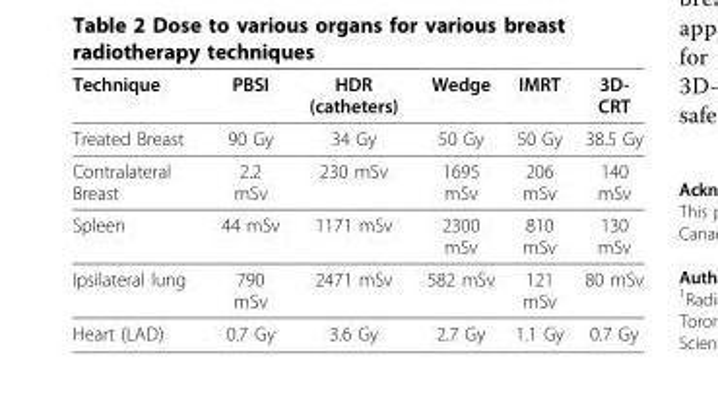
<table><thead><tr><td>Technique</td><td>PBSI</td><td>HDR (catheters)</td><td>Wedge</td><td>IMRT</td><td>3D- CRT</td></tr></thead><tbody><tr><td>Treated Breast</td><td>90 Gy</td><td>34 Gy</td><td>50 Gy</td><td>50 Gy</td><td>38.5 Gy</td></tr><tr><td>Contralateral Breast</td><td>2.2 mSv</td><td>230 mSv</td><td>1695 mSv</td><td>206 mSv</td><td>140 mSv</td></tr><tr><td>Spleen</td><td>44 mSv</td><td>1171 mSv</td><td>2300 mSv</td><td>810 mSv</td><td>130 mSv</td></tr><tr><td>Ipsilateral lung</td><td>790 mSv</td><td>2471 mSv</td><td>582 mSv</td><td>121 mSv</td><td>80 mSv</td></tr><tr><td>Heart (LAD)</td><td>0.7 Gy</td><td>3.6 Gy</td><td>2.7 Gy</td><td>1.1 Gy</td><td>0.7 Gy</td></tr></tbody></table>